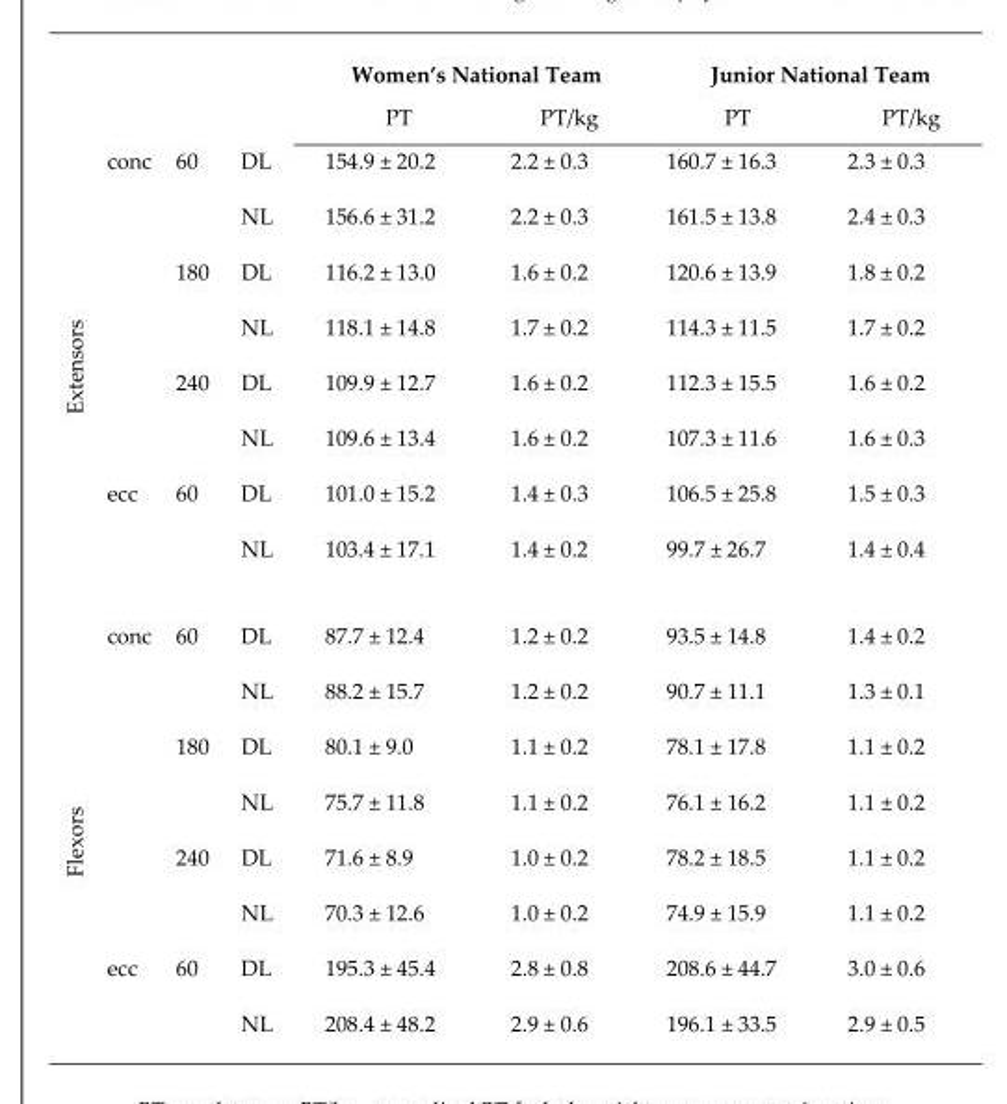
<table><thead><tr><td rowspan="2"></td><td rowspan="2"></td><td rowspan="2"></td><td rowspan="2"></td><td colspan="2">Women’s National Team</td><td colspan="2">Junior National Team</td></tr><tr><td>PT</td><td>PT/kg</td><td>PT</td><td>PT/kg</td></tr></thead><tbody><tr><td rowspan="8">Extensors</td><td>conc</td><td>60</td><td>DL</td><td>154.9 ± 20.2</td><td>2.2 ± 0.3</td><td>160.7 ± 16.3</td><td>2.3 ± 0.3</td></tr><tr><td></td><td></td><td>NL</td><td>156.6 ± 31.2</td><td>2.2 ± 0.3</td><td>161.5 ± 13.8</td><td>2.4 ± 0.3</td></tr><tr><td></td><td>180</td><td>DL</td><td>116.2 ± 13.0</td><td>1.6 ± 0.2</td><td>120.6 ± 13.9</td><td>1.8 ± 0.2</td></tr><tr><td></td><td></td><td>NL</td><td>118.1 ± 14.8</td><td>1.7 ± 0.2</td><td>114.3 ± 11.5</td><td>1.7 ± 0.2</td></tr><tr><td></td><td>240</td><td>DL</td><td>109.9 ± 12.7</td><td>1.6 ± 0.2</td><td>112.3 ± 15.5</td><td>1.6 ± 0.2</td></tr><tr><td></td><td></td><td>NL</td><td>109.6 ± 13.4</td><td>1.6 ± 0.2</td><td>107.3 ± 11.6</td><td>1.6 ± 0.3</td></tr><tr><td>ecc</td><td>60</td><td>DL</td><td>101.0 ± 15.2</td><td>1.4 ± 0.3</td><td>106.5 ± 25.8</td><td>1.5 ± 0.3</td></tr><tr><td></td><td></td><td>NL</td><td>103.4 ± 17.1</td><td>1.4 ± 0.2</td><td>99.7 ± 26.7</td><td>1.4 ± 0.4</td></tr><tr><td rowspan="8">Flexors</td><td>conc</td><td>60</td><td>DL</td><td>87.7 ± 12.4</td><td>1.2 ± 0.2</td><td>93.5 ± 14.8</td><td>1.4 ± 0.2</td></tr><tr><td></td><td></td><td>NL</td><td>88.2 ± 15.7</td><td>1.2 ± 0.2</td><td>90.7 ± 11.1</td><td>1.3 ± 0.1</td></tr><tr><td></td><td>180</td><td>DL</td><td>80.1 ± 9.0</td><td>1.1 ± 0.2</td><td>78.1 ± 17.8</td><td>1.1 ± 0.2</td></tr><tr><td></td><td></td><td>NL</td><td>75.7 ± 11.8</td><td>1.1 ± 0.2</td><td>76.1 ± 16.2</td><td>1.1 ± 0.2</td></tr><tr><td></td><td>240</td><td>DL</td><td>71.6 ± 8.9</td><td>1.0 ± 0.2</td><td>78.2 ± 18.5</td><td>1.1 ± 0.2</td></tr><tr><td></td><td></td><td>NL</td><td>70.3 ± 12.6</td><td>1.0 ± 0.2</td><td>74.9 ± 15.9</td><td>1.1 ± 0.2</td></tr><tr><td>ecc</td><td>60</td><td>DL</td><td>195.3 ± 45.4</td><td>2.8 ± 0.8</td><td>208.6 ± 44.7</td><td>3.0 ± 0.6</td></tr><tr><td></td><td></td><td>NL</td><td>208.4 ± 48.2</td><td>2.9 ± 0.6</td><td>196.1 ± 33.5</td><td>2.9 ± 0.5</td></tr></tbody></table>